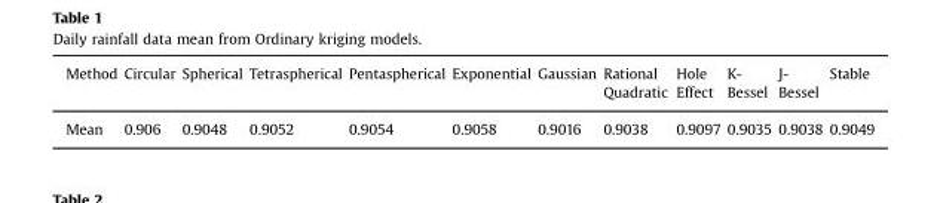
<table><thead><tr><td>Method</td><td>Circular</td><td>Spherical</td><td>Tetraspherical</td><td>Pentaspherical</td><td>Exponential</td><td>Gaussian</td><td>Rational Quadratic</td><td>Hole Effect</td><td>K- Bessel</td><td>J- Bessel</td><td>Stable</td></tr></thead><tbody><tr><td>Mean</td><td>0.906</td><td>0.9048</td><td>0.9052</td><td>0.9054</td><td>0.9058</td><td>0.9016</td><td>0.9038</td><td>0.9097</td><td>0.9035</td><td>0.9038</td><td>0.9049</td></tr></tbody></table>